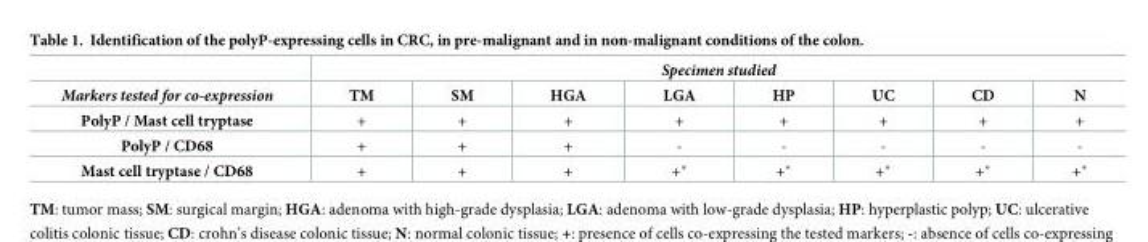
<table><thead><tr><td rowspan="2">Markers tested for co-expression</td><td colspan="8">Specimen studied</td></tr><tr><td>TM</td><td>SM</td><td>HGA</td><td>LGA</td><td>HP</td><td>UC</td><td>CD</td><td>N</td></tr></thead><tbody><tr><td>PolyP / Mast cell tryptase</td><td>+</td><td>+</td><td>+</td><td>+</td><td>+</td><td>+</td><td>+</td><td>+</td></tr><tr><td>PolyP / CD68</td><td>+</td><td>+</td><td>+</td><td>-</td><td>-</td><td>-</td><td>-</td><td>-</td></tr><tr><td>Mast cell tryptase / CD68</td><td>+</td><td>+</td><td>+</td><td>+*</td><td>+*</td><td>+*</td><td>+*</td><td>+*</td></tr></tbody></table>